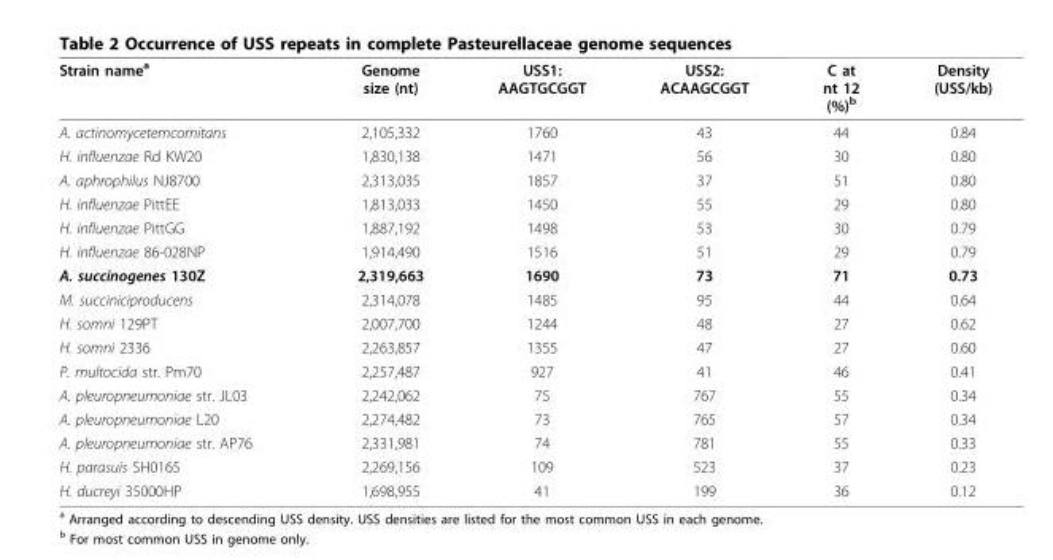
<table><thead><tr><td>Strain name<sup>a</sup></td><td>Genome size (nt)</td><td>USS1: AAGTGCGGT</td><td>USS2: ACAAGCGGT</td><td>C at nt 12 (%)<sup>b</sup></td><td>Density (USS/kb)</td></tr></thead><tbody><tr><td>A. actinomycetemcomitans</td><td>2,105,332</td><td>1760</td><td>43</td><td>44</td><td>0.84</td></tr><tr><td>H. influenzae Rd KW20</td><td>1,830,138</td><td>1471</td><td>56</td><td>30</td><td>0.80</td></tr><tr><td>A. aphrophilus NJ8700</td><td>2,313,035</td><td>1857</td><td>37</td><td>51</td><td>0.80</td></tr><tr><td>H. influenzae PittEE</td><td>1,813,033</td><td>1450</td><td>55</td><td>29</td><td>0.80</td></tr><tr><td>H. influenzae PittGG</td><td>1,887,192</td><td>1498</td><td>53</td><td>30</td><td>0.79</td></tr><tr><td>H. influenzae 86-028NP</td><td>1,914,490</td><td>1516</td><td>51</td><td>29</td><td>0.79</td></tr><tr><td>A. succinogenes 130Z</td><td>2,319,663</td><td>1690</td><td>73</td><td>71</td><td>0.73</td></tr><tr><td>M. succiniciproducens</td><td>2,314,078</td><td>1485</td><td>95</td><td>44</td><td>0.64</td></tr><tr><td>H. somni 129PT</td><td>2,007,700</td><td>1244</td><td>48</td><td>27</td><td>0.62</td></tr><tr><td>H. somni 2336</td><td>2,263,857</td><td>1355</td><td>47</td><td>27</td><td>0.60</td></tr><tr><td>P. multocida str. Pm70</td><td>2,257,487</td><td>927</td><td>41</td><td>46</td><td>0.41</td></tr><tr><td>A. pleuropneumoniae str. JL03</td><td>2,242,062</td><td>75</td><td>767</td><td>55</td><td>0.34</td></tr><tr><td>A. pleuropneumoniae L20</td><td>2,274,482</td><td>73</td><td>765</td><td>57</td><td>0.34</td></tr><tr><td>A. pleuropneumoniae str. AP76</td><td>2,331,981</td><td>74</td><td>781</td><td>55</td><td>0.33</td></tr><tr><td>H. parasuis SH0165</td><td>2,269,156</td><td>109</td><td>523</td><td>37</td><td>0.23</td></tr><tr><td>H. ducreyi 35000HP</td><td>1,698,955</td><td>41</td><td>199</td><td>36</td><td>0.12</td></tr></tbody></table>